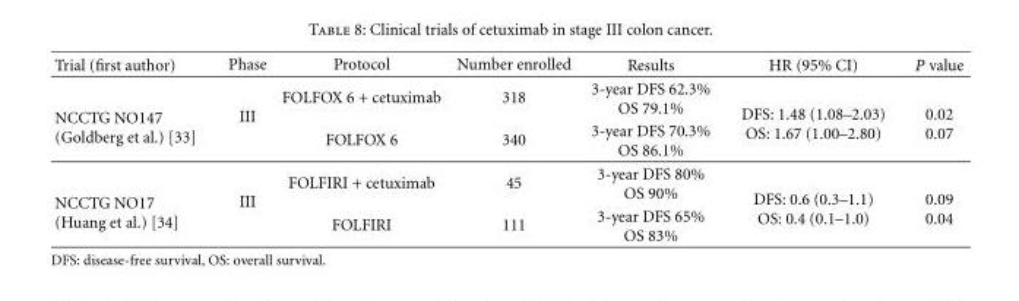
<table><thead><tr><td>Trial (first author)</td><td>Phase</td><td>Protocol</td><td>Number enrolled</td><td>Results</td><td>HR (95% CI)</td><td>P value</td></tr></thead><tbody><tr><td rowspan="2">NCCTG NO147 (Goldberg et al.) [33]</td><td rowspan="2">III</td><td>FOLFOX 6 + cetuximab</td><td>318</td><td>3-year DFS 62.3% OS 79.1%</td><td rowspan="2">DFS: 1.48 (1.08–2.03) OS: 1.67 (1.00–2.80)</td><td rowspan="2">0.02 0.07</td></tr><tr><td>FOLFOX 6</td><td>340</td><td>3-year DFS 70.3% OS 86.1%</td></tr><tr><td rowspan="2">NCCTG NO17 (Huang et al.) [34]</td><td rowspan="2">III</td><td>FOLFIRI + cetuximab</td><td>45</td><td>3-year DFS 80% OS 90%</td><td rowspan="2">DFS: 0.6 (0.3–1.1) OS: 0.4 (0.1–1.0)</td><td rowspan="2">0.09 0.04</td></tr><tr><td>FOLFIRI</td><td>111</td><td>3-year DFS 65% OS 83%</td></tr></tbody></table>